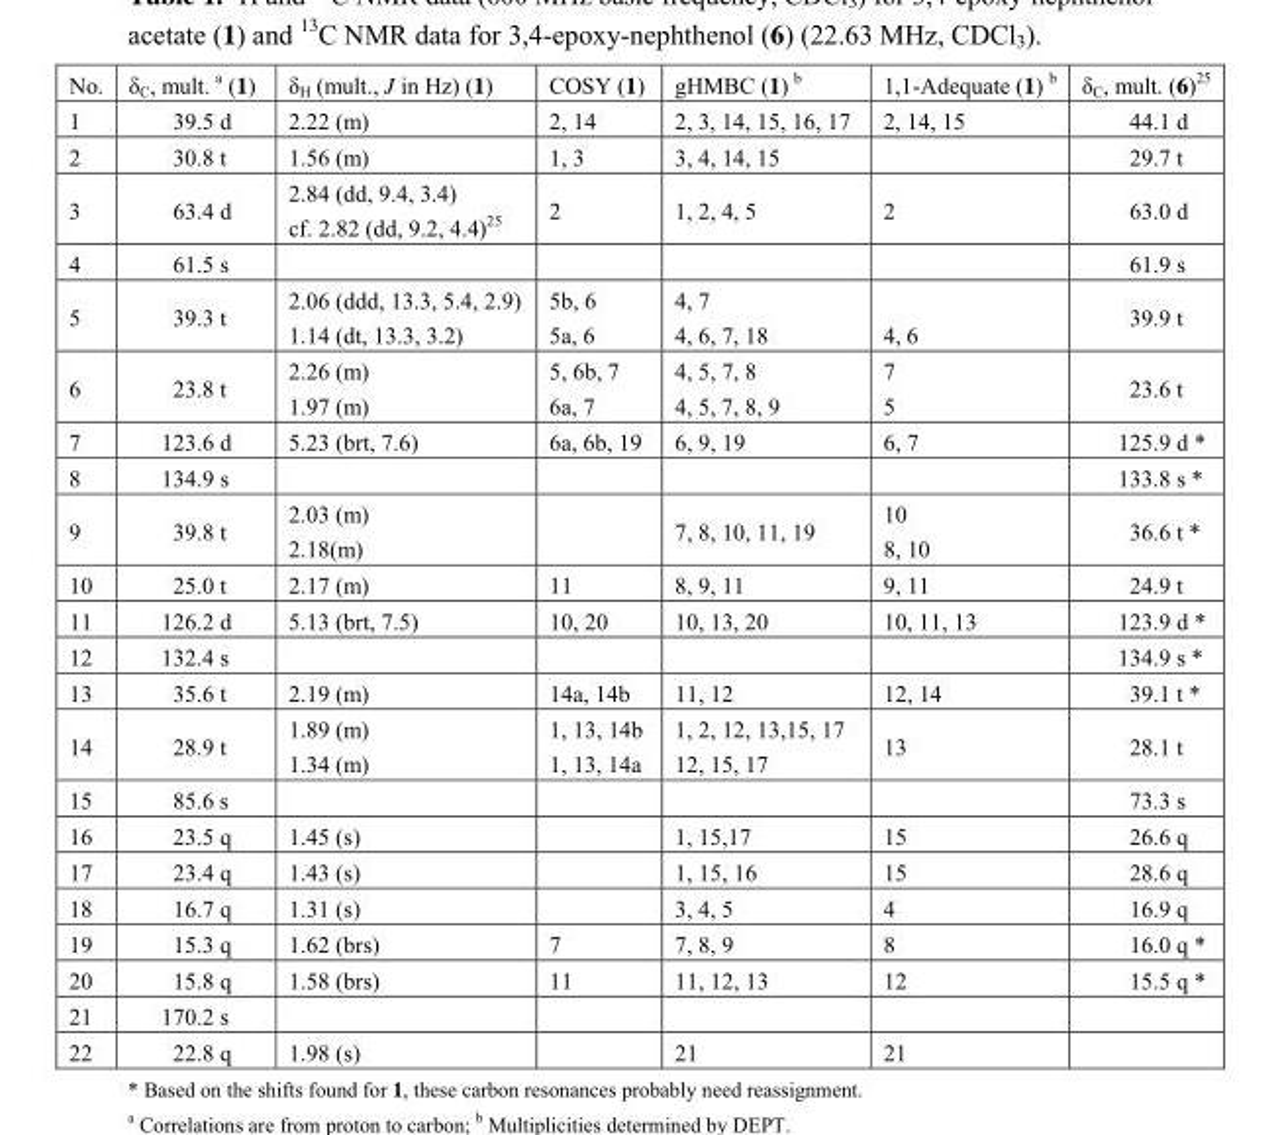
<table><thead><tr><td>No.</td><td>δ<sub>C</sub>, mult. <sup>a</sup> (1)</td><td>δ<sub>H</sub> (mult., J in Hz) (1)</td><td>COSY (1)</td><td>gHMBC (1) b</td><td>1,1-Adequate (1) b</td><td>δ<sub>C</sub>, mult. (6)<sup>25</sup></td></tr></thead><tbody><tr><td>1</td><td>39.5 d</td><td>2.22 (m)</td><td>2, 14</td><td>2, 3, 14, 15, 16, 17</td><td>2, 14, 15</td><td>44.1 d</td></tr><tr><td>2</td><td>30.8 t</td><td>1.56 (m)</td><td>1, 3</td><td>3, 4, 14, 15</td><td></td><td>29.7 t</td></tr><tr><td>3</td><td>63.4 d</td><td>2.84 (dd, 9.4, 3.4) cf. 2.82 (dd, 9.2, 4.4)<sup>25</sup></td><td>2</td><td>1, 2, 4, 5</td><td>2</td><td>63.0 d</td></tr><tr><td>4</td><td>61.5 s</td><td></td><td></td><td></td><td></td><td>61.9 s</td></tr><tr><td>5</td><td>39.3 t</td><td>2.06 (ddd, 13.3, 5.4, 2.9) 1.14 (dt, 13.3, 3.2)</td><td>5b, 6 5a, 6</td><td>4, 7 4, 6, 7, 18</td><td>4, 6</td><td>39.9 t</td></tr><tr><td>6</td><td>23.8 t</td><td>2.26 (m) 1.97 (m)</td><td>5, 6b, 7 6a, 7</td><td>4, 5, 7, 8 4, 5, 7, 8, 9</td><td>7 5</td><td>23.6 t</td></tr><tr><td>7</td><td>123.6 d</td><td>5.23 (brt, 7.6)</td><td>6a, 6b, 19</td><td>6, 9, 19</td><td>6, 7</td><td>125.9 d *</td></tr><tr><td>8</td><td>134.9 s</td><td></td><td></td><td></td><td></td><td>133.8 s *</td></tr><tr><td>9</td><td>39.8 t</td><td>2.03 (m) 2.18(m)</td><td></td><td>7, 8, 10, 11, 19</td><td>10 8, 10</td><td>36.6 t *</td></tr><tr><td>10</td><td>25.0 t</td><td>2.17 (m)</td><td>11</td><td>8, 9, 11</td><td>9, 11</td><td>24.9 t</td></tr><tr><td>11</td><td>126.2 d</td><td>5.13 (brt, 7.5)</td><td>10, 20</td><td>10, 13, 20</td><td>10, 11, 13</td><td>123.9 d *</td></tr><tr><td>12</td><td>132.4 s</td><td></td><td></td><td></td><td></td><td>134.9 s *</td></tr><tr><td>13</td><td>35.6 t</td><td>2.19 (m)</td><td>14a, 14b</td><td>11, 12</td><td>12, 14</td><td>39.1 t *</td></tr><tr><td>14</td><td>28.9 t</td><td>1.89 (m) 1.34 (m)</td><td>1, 13, 14b 1, 13, 14a</td><td>1, 2, 12, 13,15, 17 12, 15, 17</td><td>13</td><td>28.1 t</td></tr><tr><td>15</td><td>85.6 s</td><td></td><td></td><td></td><td></td><td>73.3 s</td></tr><tr><td>16</td><td>23.5 q</td><td>1.45 (s)</td><td></td><td>1, 15,17</td><td>15</td><td>26.6 q</td></tr><tr><td>17</td><td>23.4 q</td><td>1.43 (s)</td><td></td><td>1, 15, 16</td><td>15</td><td>28.6 q</td></tr><tr><td>18</td><td>16.7 q</td><td>1.31 (s)</td><td></td><td>3, 4, 5</td><td>4</td><td>16.9 q</td></tr><tr><td>19</td><td>15.3 q</td><td>1.62 (brs)</td><td>7</td><td>7, 8, 9</td><td>8</td><td>16.0 q *</td></tr><tr><td>20</td><td>15.8 q</td><td>1.58 (brs)</td><td>11</td><td>11, 12, 13</td><td>12</td><td>15.5 q *</td></tr><tr><td>21</td><td>170.2 s</td><td></td><td></td><td></td><td></td><td></td></tr><tr><td>22</td><td>22.8 q</td><td>1.98 (s)</td><td></td><td>21</td><td>21</td><td></td></tr></tbody></table>